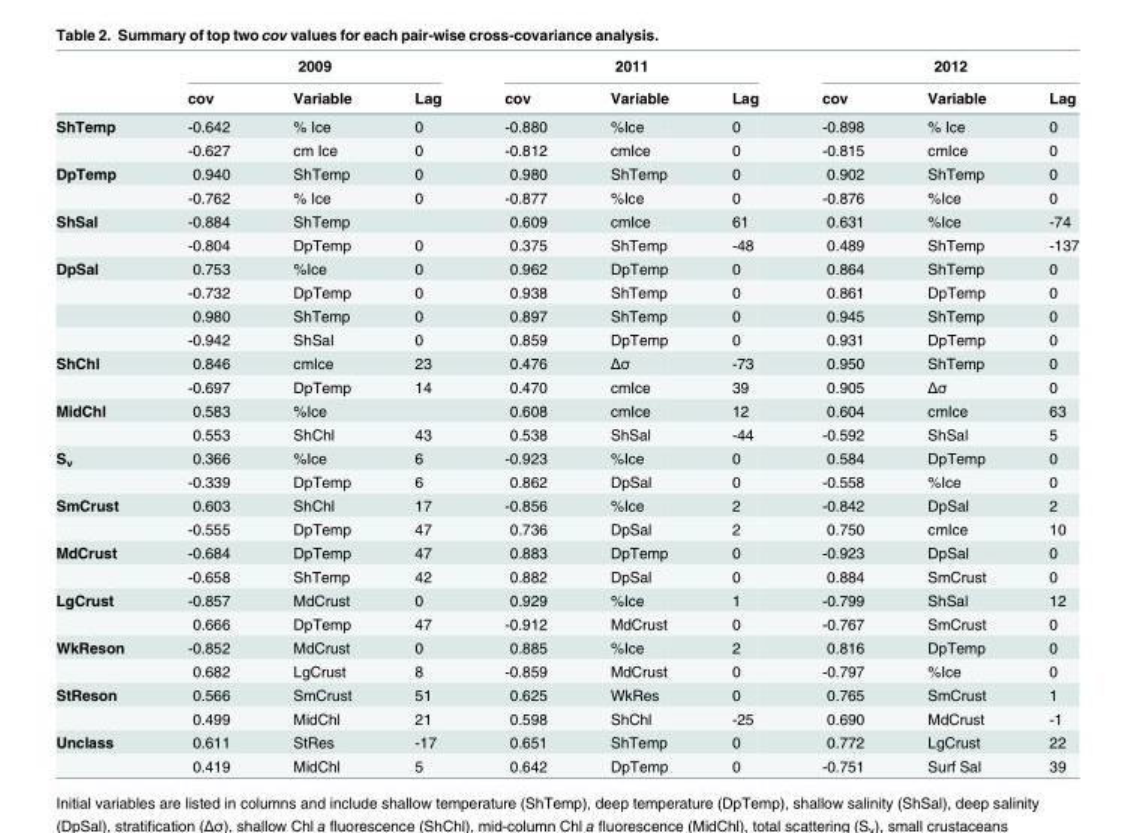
<table><thead><tr><td rowspan="2"></td><td colspan="3">2009</td><td colspan="3">2011</td><td colspan="3">2012</td></tr><tr><td>cov</td><td>Variable</td><td>Lag</td><td>cov</td><td>Variable</td><td>Lag</td><td>cov</td><td>Variable</td><td>Lag</td></tr></thead><tbody><tr><td rowspan="2">ShTemp</td><td>-0.642</td><td>% Ice</td><td>0</td><td>-0.880</td><td>%Ice</td><td>0</td><td>-0.898</td><td>% Ice</td><td>0</td></tr><tr><td>-0.627</td><td>cm Ice</td><td>0</td><td>-0.812</td><td>cmIce</td><td>0</td><td>-0.815</td><td>cmIce</td><td>0</td></tr><tr><td rowspan="2">DpTemp</td><td>0.940</td><td>ShTemp</td><td>0</td><td>0.980</td><td>ShTemp</td><td>0</td><td>0.902</td><td>ShTemp</td><td>0</td></tr><tr><td>-0.762</td><td>% Ice</td><td>0</td><td>-0.877</td><td>%Ice</td><td>0</td><td>-0.876</td><td>%Ice</td><td>0</td></tr><tr><td rowspan="2">ShSal</td><td>-0.884</td><td>ShTemp</td><td></td><td>0.609</td><td>cmIce</td><td>61</td><td>0.631</td><td>%Ice</td><td>-74</td></tr><tr><td>-0.804</td><td>DpTemp</td><td>0</td><td>0.375</td><td>ShTemp</td><td>-48</td><td>0.489</td><td>ShTemp</td><td>-137</td></tr><tr><td rowspan="4">DpSal</td><td>0.753</td><td>%Ice</td><td>0</td><td>0.962</td><td>DpTemp</td><td>0</td><td>0.864</td><td>ShTemp</td><td>0</td></tr><tr><td>-0.732</td><td>DpTemp</td><td>0</td><td>0.938</td><td>ShTemp</td><td>0</td><td>0.861</td><td>DpTemp</td><td>0</td></tr><tr><td>0.980</td><td>ShTemp</td><td>0</td><td>0.897</td><td>ShTemp</td><td>0</td><td>0.945</td><td>ShTemp</td><td>0</td></tr><tr><td>-0.942</td><td>ShSal</td><td>0</td><td>0.859</td><td>DpTemp</td><td>0</td><td>0.931</td><td>DpTemp</td><td>0</td></tr><tr><td rowspan="2">ShChl</td><td>0.846</td><td>cmIce</td><td>23</td><td>0.476</td><td>Δσ</td><td>-73</td><td>0.950</td><td>ShTemp</td><td>0</td></tr><tr><td>-0.697</td><td>DpTemp</td><td>14</td><td>0.470</td><td>cmIce</td><td>39</td><td>0.905</td><td>Δσ</td><td>0</td></tr><tr><td rowspan="2">MidChl</td><td>0.583</td><td>%Ice</td><td></td><td>0.608</td><td>cmIce</td><td>12</td><td>0.604</td><td>cmIce</td><td>63</td></tr><tr><td>0.553</td><td>ShChl</td><td>43</td><td>0.538</td><td>ShSal</td><td>-44</td><td>-0.592</td><td>ShSal</td><td>5</td></tr><tr><td rowspan="2">S<sub>v</sub></td><td>0.366</td><td>%Ice</td><td>6</td><td>-0.923</td><td>%Ice</td><td>0</td><td>0.584</td><td>DpTemp</td><td>0</td></tr><tr><td>-0.339</td><td>DpTemp</td><td>6</td><td>0.862</td><td>DpSal</td><td>0</td><td>-0.558</td><td>%Ice</td><td>0</td></tr><tr><td rowspan="2">SmCrust</td><td>0.603</td><td>ShChl</td><td>17</td><td>-0.856</td><td>%Ice</td><td>2</td><td>-0.842</td><td>DpSal</td><td>2</td></tr><tr><td>-0.555</td><td>DpTemp</td><td>47</td><td>0.736</td><td>DpSal</td><td>2</td><td>0.750</td><td>cmIce</td><td>10</td></tr><tr><td rowspan="2">MdCrust</td><td>-0.684</td><td>DpTemp</td><td>47</td><td>0.883</td><td>DpTemp</td><td>0</td><td>-0.923</td><td>DpSal</td><td>0</td></tr><tr><td>-0.658</td><td>ShTemp</td><td>42</td><td>0.882</td><td>DpSal</td><td>0</td><td>0.884</td><td>SmCrust</td><td>0</td></tr><tr><td rowspan="2">LgCrust</td><td>-0.857</td><td>MdCrust</td><td>0</td><td>0.929</td><td>%Ice</td><td>1</td><td>-0.799</td><td>ShSal</td><td>12</td></tr><tr><td>0.666</td><td>DpTemp</td><td>47</td><td>-0.912</td><td>MdCrust</td><td>0</td><td>-0.767</td><td>SmCrust</td><td>0</td></tr><tr><td rowspan="2">WkReson</td><td>-0.852</td><td>MdCrust</td><td>0</td><td>0.885</td><td>%Ice</td><td>2</td><td>0.816</td><td>DpTemp</td><td>0</td></tr><tr><td>0.682</td><td>LgCrust</td><td>8</td><td>-0.859</td><td>MdCrust</td><td>0</td><td>-0.797</td><td>%Ice</td><td>0</td></tr><tr><td rowspan="2">StReson</td><td>0.566</td><td>SmCrust</td><td>51</td><td>0.625</td><td>WkRes</td><td>0</td><td>0.765</td><td>SmCrust</td><td>1</td></tr><tr><td>0.499</td><td>MidChl</td><td>21</td><td>0.598</td><td>ShChl</td><td>-25</td><td>0.690</td><td>MdCrust</td><td>-1</td></tr><tr><td rowspan="2">Unclass</td><td>0.611</td><td>StRes</td><td>-17</td><td>0.651</td><td>ShTemp</td><td>0</td><td>0.772</td><td>LgCrust</td><td>22</td></tr><tr><td>0.419</td><td>MidChl</td><td>5</td><td>0.642</td><td>DpTemp</td><td>0</td><td>-0.751</td><td>Surf Sal</td><td>39</td></tr></tbody></table>